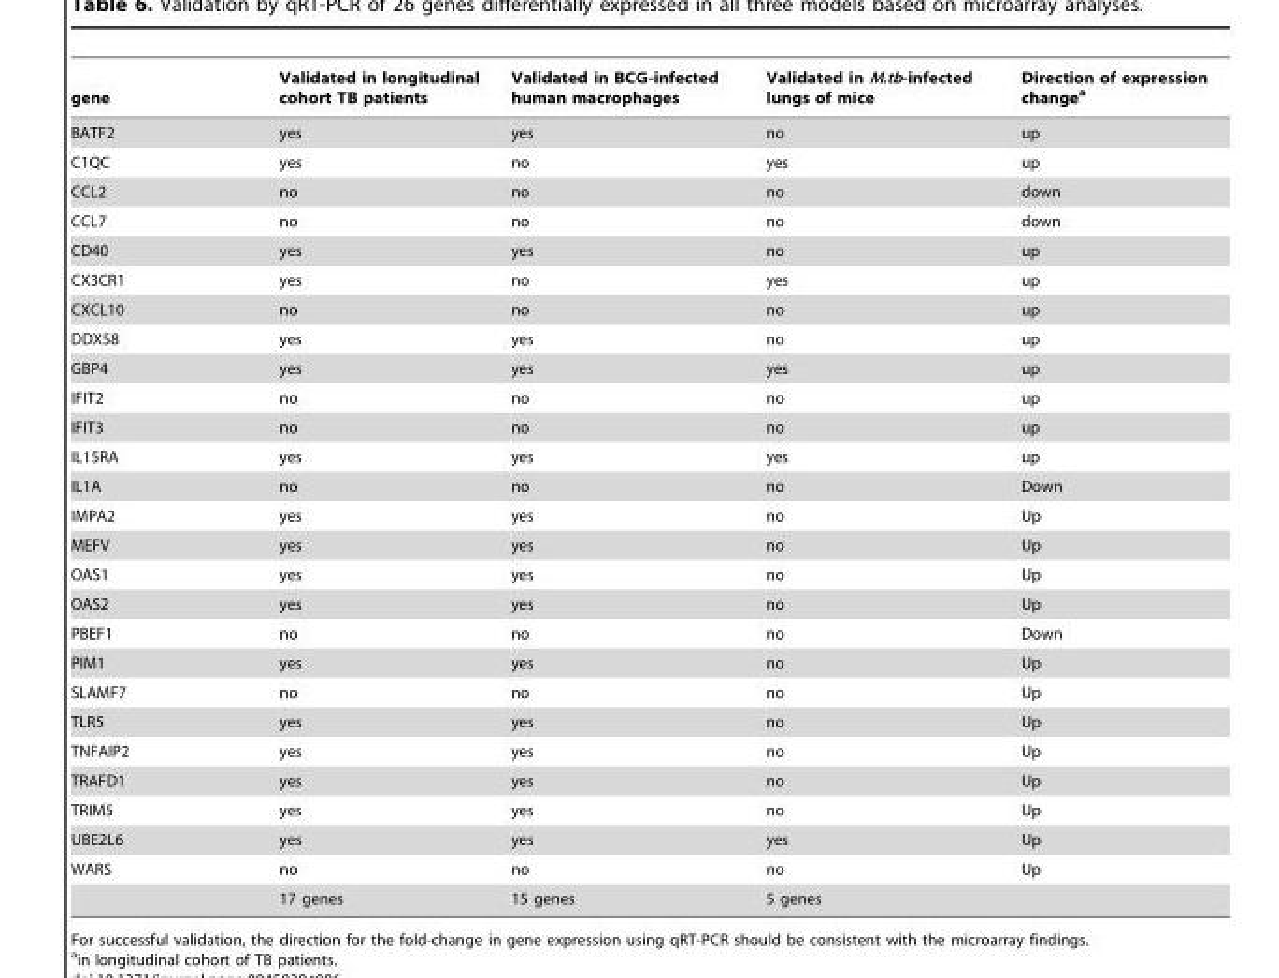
<table><thead><tr><td>gene</td><td>Validated in longitudinal cohort TB patients</td><td>Validated in BCG-infected human macrophages</td><td>Validated in M.tb-infected lungs of mice</td><td>Direction of expression change<sup>a</sup></td></tr></thead><tbody><tr><td>BATF2</td><td>yes</td><td>yes</td><td>no</td><td>up</td></tr><tr><td>C1QC</td><td>yes</td><td>no</td><td>yes</td><td>up</td></tr><tr><td>CCL2</td><td>no</td><td>no</td><td>no</td><td>down</td></tr><tr><td>CCL7</td><td>no</td><td>no</td><td>no</td><td>down</td></tr><tr><td>CD40</td><td>yes</td><td>yes</td><td>no</td><td>up</td></tr><tr><td>CX3CR1</td><td>yes</td><td>no</td><td>yes</td><td>up</td></tr><tr><td>CXCL10</td><td>no</td><td>no</td><td>no</td><td>up</td></tr><tr><td>DDX58</td><td>yes</td><td>yes</td><td>no</td><td>up</td></tr><tr><td>GBP4</td><td>yes</td><td>yes</td><td>yes</td><td>up</td></tr><tr><td>IFIT2</td><td>no</td><td>no</td><td>no</td><td>up</td></tr><tr><td>IFIT3</td><td>no</td><td>no</td><td>no</td><td>up</td></tr><tr><td>IL15RA</td><td>yes</td><td>yes</td><td>yes</td><td>up</td></tr><tr><td>IL1A</td><td>no</td><td>no</td><td>no</td><td>Down</td></tr><tr><td>IMPA2</td><td>yes</td><td>yes</td><td>no</td><td>Up</td></tr><tr><td>MEFV</td><td>yes</td><td>yes</td><td>no</td><td>Up</td></tr><tr><td>OAS1</td><td>yes</td><td>yes</td><td>no</td><td>Up</td></tr><tr><td>OAS2</td><td>yes</td><td>yes</td><td>no</td><td>Up</td></tr><tr><td>PBEF1</td><td>no</td><td>no</td><td>no</td><td>Down</td></tr><tr><td>PIM1</td><td>yes</td><td>yes</td><td>no</td><td>Up</td></tr><tr><td>SLAMF7</td><td>no</td><td>no</td><td>no</td><td>Up</td></tr><tr><td>TLR5</td><td>yes</td><td>yes</td><td>no</td><td>Up</td></tr><tr><td>TNFAIP2</td><td>yes</td><td>yes</td><td>no</td><td>Up</td></tr><tr><td>TRAFD1</td><td>yes</td><td>yes</td><td>no</td><td>Up</td></tr><tr><td>TRIM5</td><td>yes</td><td>yes</td><td>no</td><td>Up</td></tr><tr><td>UBE2L6</td><td>yes</td><td>yes</td><td>yes</td><td>Up</td></tr><tr><td rowspan="2">WARS</td><td>no</td><td>no</td><td>no</td><td>Up</td></tr><tr><td>17 genes</td><td>15 genes</td><td>5 genes</td><td></td></tr></tbody></table>